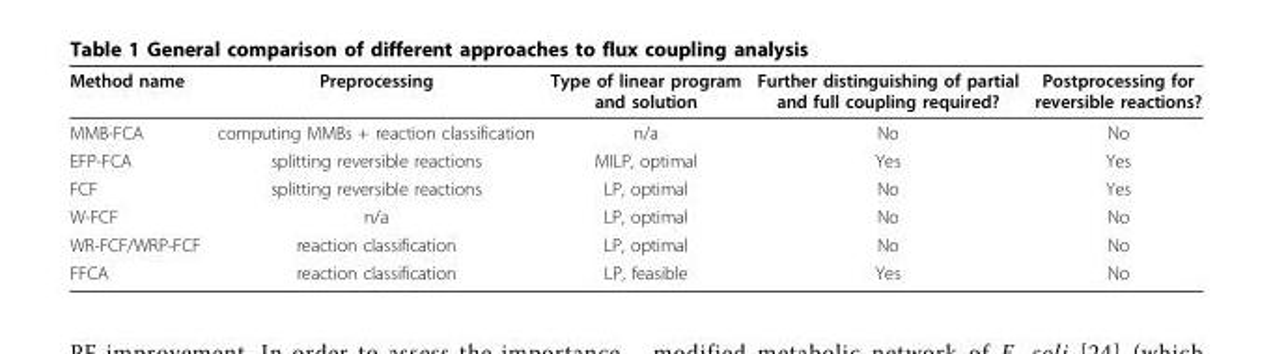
<table><thead><tr><td>Method name</td><td>Preprocessing</td><td>Type of linear program and solution</td><td>Further distinguishing of partial and full coupling required?</td><td>Postprocessing for reversible reactions?</td></tr></thead><tbody><tr><td>MMB-FCA</td><td>computing MMBs + reaction classification</td><td>n/a</td><td>No</td><td>No</td></tr><tr><td>EFP-FCA</td><td>splitting reversible reactions</td><td>MILP, optimal</td><td>Yes</td><td>Yes</td></tr><tr><td>FCF</td><td>splitting reversible reactions</td><td>LP, optimal</td><td>No</td><td>Yes</td></tr><tr><td>W-FCF</td><td>n/a</td><td>LP, optimal</td><td>No</td><td>No</td></tr><tr><td>WR-FCF/WRP-FCF</td><td>reaction classification</td><td>LP, optimal</td><td>No</td><td>No</td></tr><tr><td>FFCA</td><td>reaction classification</td><td>LP, feasible</td><td>Yes</td><td>No</td></tr></tbody></table>